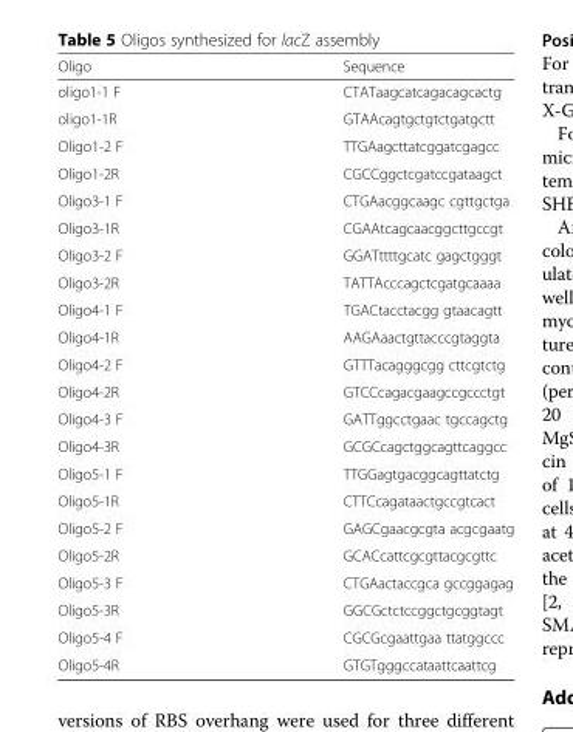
<table><thead><tr><td>Oligo</td><td>Sequence</td></tr></thead><tbody><tr><td>oligo1-1 F</td><td>CTATaagcatcagacagcactg</td></tr><tr><td>oligo1-1R</td><td>GTAAcagtgctgtctgatgctt</td></tr><tr><td>Oligo1-2 F</td><td>TTGAagcttatcggatcgagcc</td></tr><tr><td>Oligo1-2R</td><td>CGCCggctcgatccgataagct</td></tr><tr><td>Oligo3-1 F</td><td>CTGAacggcaagc cgttgctga</td></tr><tr><td>Oligo3-1R</td><td>CGAAtcagcaacggcttgccgt</td></tr><tr><td>Oligo3-2 F</td><td>GGATttttgcatc gagctgggt</td></tr><tr><td>Oligo3-2R</td><td>TATTAcccagctcgatgcaaaa</td></tr><tr><td>Oligo4-1 F</td><td>TGACtacctacgg gtaacagtt</td></tr><tr><td>Oligo4-1R</td><td>AAGAaactgttacccgtaggta</td></tr><tr><td>Oligo4-2 F</td><td>GTTTacagggcgg cttcgtctg</td></tr><tr><td>Oligo4-2R</td><td>GTCCcagacgaagccgccctgt</td></tr><tr><td>Oligo4-3 F</td><td>GATTggcctgaac tgccagctg</td></tr><tr><td>Oligo4-3R</td><td>GCGCcagctggcagttcaggcc</td></tr><tr><td>Oligo5-1 F</td><td>TTGGagtgacggcagttatctg</td></tr><tr><td>Oligo5-1R</td><td>CTTCcagataactgccgtcact</td></tr><tr><td>Oligo5-2 F</td><td>GAGCgaacgcgta acgcgaatg</td></tr><tr><td>Oligo5-2R</td><td>GCACcattcgcgttacgcgttc</td></tr><tr><td>Oligo5-3 F</td><td>CTGAactaccgca gccggagag</td></tr><tr><td>Oligo5-3R</td><td>GGCGctctccggctgcggtagt</td></tr><tr><td>Oligo5-4 F</td><td>CGCGcgaattgaa ttatggccc</td></tr><tr><td>Oligo5-4R</td><td>GTGTgggccataattcaattcg</td></tr></tbody></table>